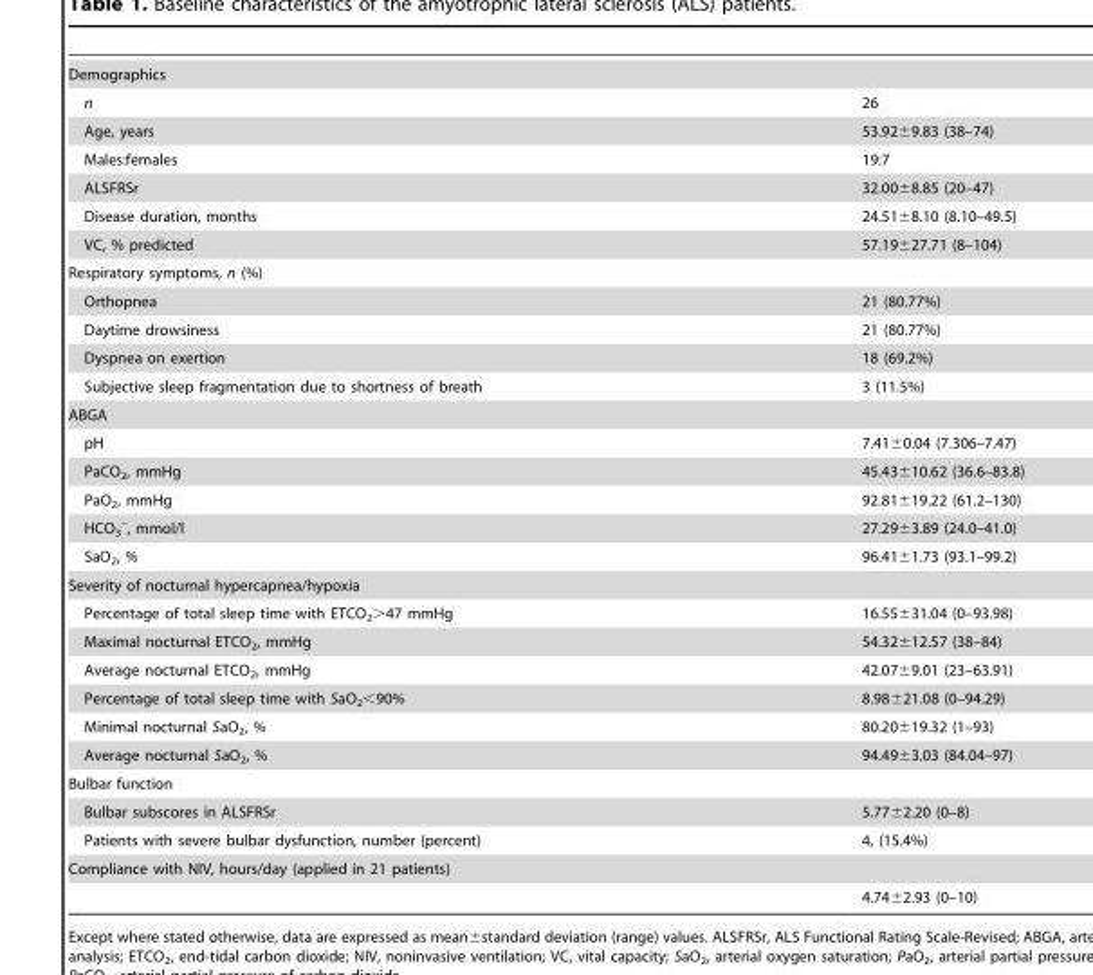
<table><tbody><tr><td colspan="2">Demographics</td></tr><tr><td>n</td><td>26</td></tr><tr><td>Age, years</td><td>53.92±9.83 (38–74)</td></tr><tr><td>Males:females</td><td>19:7</td></tr><tr><td>ALSFRSr</td><td>32.00±8.85 (20–47)</td></tr><tr><td>Disease duration, months</td><td>24.51±8.10 (8.10–49.5)</td></tr><tr><td>VC, % predicted</td><td>57.19±27.71 (8–104)</td></tr><tr><td colspan="2">Respiratory symptoms, n (%)</td></tr><tr><td>Orthopnea</td><td>21 (80.77%)</td></tr><tr><td>Daytime drowsiness</td><td>21 (80.77%)</td></tr><tr><td>Dyspnea on exertion</td><td>18 (69.2%)</td></tr><tr><td>Subjective sleep fragmentation due to shortness of breath</td><td>3 (11.5%)</td></tr><tr><td colspan="2">ABGA</td></tr><tr><td>pH</td><td>7.41±0.04 (7.306–7.47)</td></tr><tr><td>PaCO<sub>2</sub>, mmHg</td><td>45.43±10.62 (36.6–83.8)</td></tr><tr><td>PaO<sub>2</sub>, mmHg</td><td>92.81±19.22 (61.2–130)</td></tr><tr><td>HCO<sub>3</sub> <sup>–</sup>, mmol/l</td><td>27.29±3.89 (24.0–41.0)</td></tr><tr><td>SaO<sub>2</sub>, %</td><td>96.41±1.73 (93.1–99.2)</td></tr><tr><td colspan="2">Severity of nocturnal hypercapnea/hypoxia</td></tr><tr><td>Percentage of total sleep time with ETCO<sub>2</sub>&gt;47 mmHg</td><td>16.55±31.04 (0–93.98)</td></tr><tr><td>Maximal nocturnal ETCO<sub>2</sub>, mmHg</td><td>54.32±12.57 (38–84)</td></tr><tr><td>Average nocturnal ETCO<sub>2</sub>, mmHg</td><td>42.07±9.01 (23–63.91)</td></tr><tr><td>Percentage of total sleep time with SaO<sub>2</sub>&lt;90%</td><td>8.98±21.08 (0–94.29)</td></tr><tr><td>Minimal nocturnal SaO<sub>2</sub>, %</td><td>80.20±19.32 (1–93)</td></tr><tr><td>Average nocturnal SaO<sub>2</sub>, %</td><td>94.49±3.03 (84.04–97)</td></tr><tr><td colspan="2">Bulbar function</td></tr><tr><td>Bulbar subscores in ALSFRSr</td><td>5.77±2.20 (0–8)</td></tr><tr><td>Patients with severe bulbar dysfunction, number (percent)</td><td>4, (15.4%)</td></tr><tr><td colspan="2">Compliance with NIV, hours/day (applied in 21 patients)</td></tr><tr><td></td><td>4.74±2.93 (0–10)</td></tr></tbody></table>